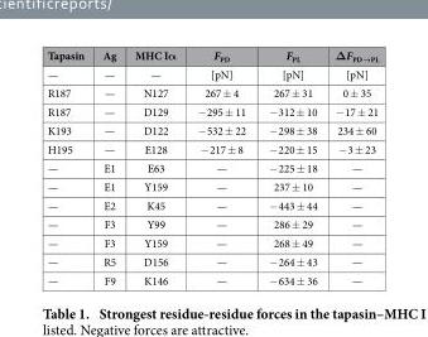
<table><thead><tr><td>Tapasin</td><td>Ag</td><td>MHC Iα</td><td>F<sub>PD</sub></td><td>F<sub>PL</sub></td><td>ΔF<sub>PD→PL</sub></td></tr></thead><tbody><tr><td>—</td><td>—</td><td>—</td><td>[pN]</td><td>[pN]</td><td>[pN]</td></tr><tr><td>R187</td><td>—</td><td>N127</td><td>267 ± 4</td><td>267 ± 31</td><td>0 ± 35</td></tr><tr><td>R187</td><td>—</td><td>D129</td><td>− 295 ± 11</td><td>− 312 ± 10</td><td>− 17 ± 21</td></tr><tr><td>K193</td><td>—</td><td>D122</td><td>− 532 ± 22</td><td>− 298 ± 38</td><td>234 ± 60</td></tr><tr><td>H195</td><td>—</td><td>E128</td><td>− 217 ± 8</td><td>− 220 ± 15</td><td>− 3 ± 23</td></tr><tr><td>—</td><td>E1</td><td>E63</td><td>—</td><td>− 225 ± 18</td><td>—</td></tr><tr><td>—</td><td>E1</td><td>Y159</td><td>—</td><td>237 ± 10</td><td>—</td></tr><tr><td>—</td><td>E2</td><td>K45</td><td>—</td><td>− 443 ± 44</td><td>—</td></tr><tr><td>—</td><td>F3</td><td>Y99</td><td>—</td><td>286 ± 29</td><td>—</td></tr><tr><td>—</td><td>F3</td><td>Y159</td><td>—</td><td>268 ± 49</td><td>—</td></tr><tr><td>—</td><td>R5</td><td>D156</td><td>—</td><td>− 264 ± 43</td><td>—</td></tr><tr><td>—</td><td>F9</td><td>K146</td><td>—</td><td>− 634 ± 36</td><td>—</td></tr></tbody></table>